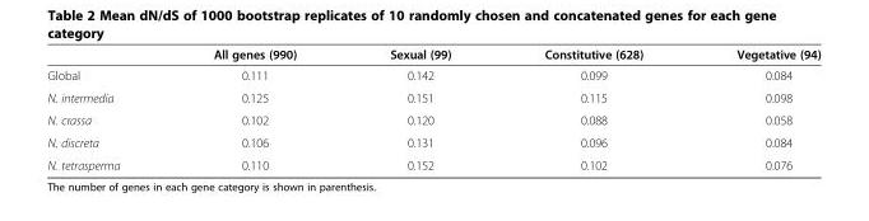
<table><thead><tr><td></td><td>All genes (990)</td><td>Sexual (99)</td><td>Constitutive (628)</td><td>Vegetative (94)</td></tr></thead><tbody><tr><td>Global</td><td>0.111</td><td>0.142</td><td>0.099</td><td>0.084</td></tr><tr><td>N. intermedia</td><td>0.125</td><td>0.151</td><td>0.115</td><td>0.098</td></tr><tr><td>N. crassa</td><td>0.102</td><td>0.120</td><td>0.088</td><td>0.058</td></tr><tr><td>N. discreta</td><td>0.106</td><td>0.131</td><td>0.096</td><td>0.084</td></tr><tr><td>N. tetrasperma</td><td>0.110</td><td>0.152</td><td>0.102</td><td>0.076</td></tr></tbody></table>